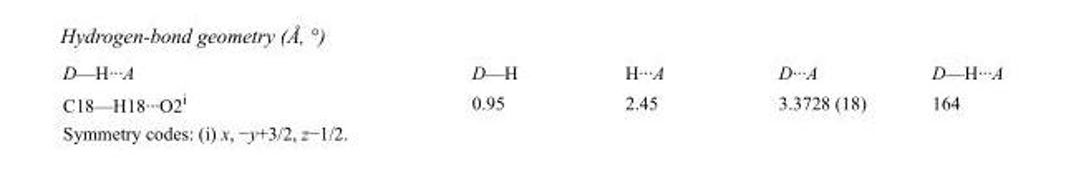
<table><tbody><tr><td>D—H···A</td><td>D—H</td><td>H···A</td><td>D···A</td><td>D—H···A</td></tr><tr><td>C18—H18···O2<sup>i</sup></td><td>0.95</td><td>2.45</td><td>3.3728 (18)</td><td>164</td></tr></tbody></table>